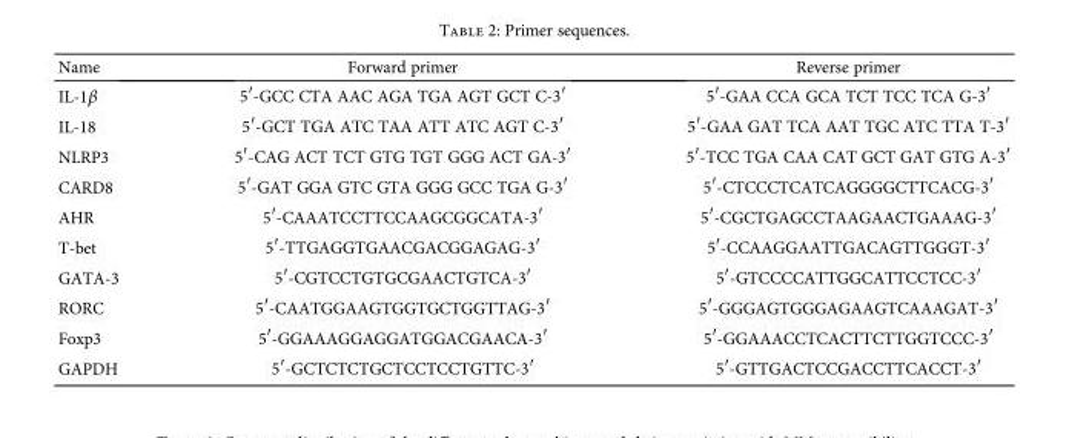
<table><thead><tr><td>Name</td><td>Forward primer</td><td>Reverse primer</td></tr></thead><tbody><tr><td>IL-1β</td><td>5′-GCC CTA AAC AGA TGA AGT GCT C-3′</td><td>5′-GAA CCA GCA TCT TCC TCA G-3′</td></tr><tr><td>IL-18</td><td>5′-GCT TGA ATC TAA ATT ATC AGT C-3′</td><td>5′-GAA GAT TCA AAT TGC ATC TTA T-3′</td></tr><tr><td>NLRP3</td><td>5′-CAG ACT TCT GTG TGT GGG ACT GA-3′</td><td>5′-TCC TGA CAA CAT GCT GAT GTG A-3′</td></tr><tr><td>CARD8</td><td>5′-GAT GGA GTC GTA GGG GCC TGA G-3′</td><td>5′-CTCCCTCATCAGGGGCTTCACG-3′</td></tr><tr><td>AHR</td><td>5′-CAAATCCTTCCAAGCGGCATA-3′</td><td>5′-CGCTGAGCCTAAGAACTGAAAG-3′</td></tr><tr><td>T-bet</td><td>5′-TTGAGGTGAACGACGGAGAG-3′</td><td>5′-CCAAGGAATTGACAGTTGGGT-3′</td></tr><tr><td>GATA-3</td><td>5′-CGTCCTGTGCGAACTGTCA-3′</td><td>5′-GTCCCCATTGGCATTCCTCC-3′</td></tr><tr><td>RORC</td><td>5′-CAATGGAAGTGGTGCTGGTTAG-3′</td><td>5′-GGGAGTGGGAGAAGTCAAAGAT-3′</td></tr><tr><td>Foxp3</td><td>5′-GGAAAGGAGGATGGACGAACA-3′</td><td>5′-GGAAACCTCACTTCTTGGTCCC-3′</td></tr><tr><td>GAPDH</td><td>5′-GCTCTCTGCTCCTCCTGTTC-3′</td><td>5′-GTTGACTCCGACCTTCACCT-3′</td></tr></tbody></table>